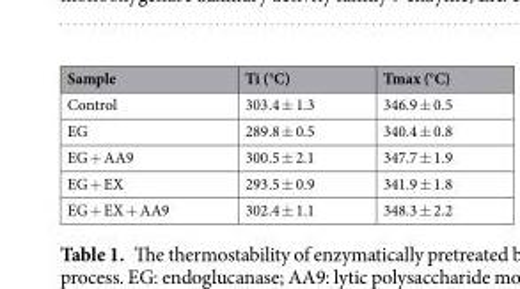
<table><thead><tr><td>Sample</td><td>Ti (°C)</td><td>Tmax (°C)</td></tr></thead><tbody><tr><td>Control</td><td>303.4 ± 1.3</td><td>346.9 ± 0.5</td></tr><tr><td>EG</td><td>289.8 ± 0.5</td><td>340.4 ± 0.8</td></tr><tr><td>EG + AA9</td><td>300.5 ± 2.1</td><td>347.7 ± 1.9</td></tr><tr><td>EG + EX</td><td>293.5 ± 0.9</td><td>341.9 ± 1.8</td></tr><tr><td>EG + EX + AA9</td><td>302.4 ± 1.1</td><td>348.3 ± 2.2</td></tr></tbody></table>